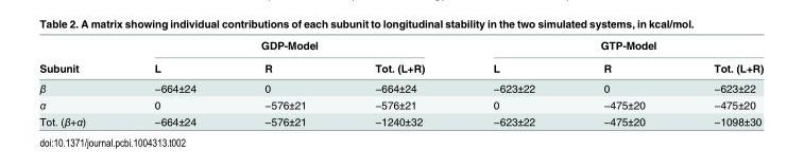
<table><thead><tr><td rowspan="2">Subunit</td><td colspan="3">GDP-Model</td><td colspan="3">GTP-Model</td></tr><tr><td>L</td><td>R</td><td>Tot. (L+R)</td><td>L</td><td>R</td><td>Tot. (L+R)</td></tr></thead><tbody><tr><td>β</td><td>−664±24</td><td>0</td><td>−664±24</td><td>−623±22</td><td>0</td><td>−623±22</td></tr><tr><td>α</td><td>0</td><td>−576±21</td><td>−576±21</td><td>0</td><td>−475±20</td><td>−475±20</td></tr><tr><td>Tot. (β+α)</td><td>−664±24</td><td>−576±21</td><td>−1240±32</td><td>−623±22</td><td>−475±20</td><td>−1098±30</td></tr></tbody></table>